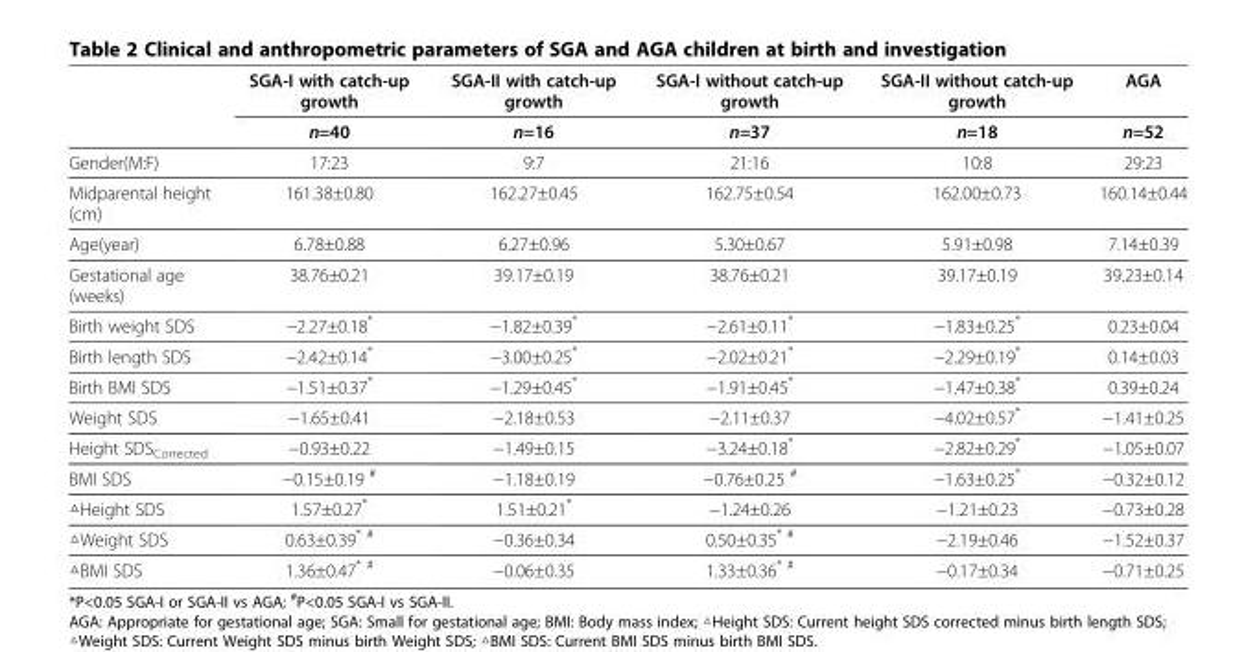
<table><thead><tr><td rowspan="2"></td><td rowspan="2">SGA-I with catch-up growth n=40</td><td rowspan="2">SGA-II with catch-up growth n=16</td><td rowspan="2">SGA-I without catch-up growth n=37</td><td rowspan="2">SGA-II without catch-up growth n=18</td><td rowspan="2">AGA n=52</td></tr><tr></tr></thead><tbody><tr><td>Gender(M:F)</td><td>17:23</td><td>9:7</td><td>21:16</td><td>10:8</td><td>29:23</td></tr><tr><td>Midparental height (cm)</td><td>161.38±0.80</td><td>162.27±0.45</td><td>162.75±0.54</td><td>162.00±0.73</td><td>160.14±0.44</td></tr><tr><td>Age(year)</td><td>6.78±0.88</td><td>6.27±0.96</td><td>5.30±0.67</td><td>5.91±0.98</td><td>7.14±0.39</td></tr><tr><td>Gestational age (weeks)</td><td>38.76±0.21</td><td>39.17±0.19</td><td>38.76±0.21</td><td>39.17±0.19</td><td>39.23±0.14</td></tr><tr><td>Birth weight SDS</td><td>−2.27±0.18*</td><td>−1.82±0.39*</td><td>−2.61±0.11*</td><td>−1.83±0.25*</td><td>0.23±0.04</td></tr><tr><td>Birth length SDS</td><td>−2.42±0.14*</td><td>−3.00±0.25*</td><td>−2.02±0.21*</td><td>−2.29±0.19*</td><td>0.14±0.03</td></tr><tr><td>Birth BMI SDS</td><td>−1.51±0.37*</td><td>−1.29±0.45*</td><td>−1.91±0.45*</td><td>−1.47±0.38*</td><td>0.39±0.24</td></tr><tr><td>Weight SDS</td><td>−1.65±0.41</td><td>−2.18±0.53</td><td>−2.11±0.37</td><td>−4.02±0.57*</td><td>−1.41±0.25</td></tr><tr><td>Height SDS<sub>Corrected</sub></td><td>−0.93±0.22</td><td>−1.49±0.15</td><td>−3.24±0.18*</td><td>−2.82±0.29*</td><td>−1.05±0.07</td></tr><tr><td>BMI SDS</td><td>−0.15±0.19 <sup>#</sup></td><td>−1.18±0.19</td><td>−0.76±0.25 <sup>#</sup></td><td>−1.63±0.25*</td><td>−0.32±0.12</td></tr><tr><td>△Height SDS</td><td>1.57±0.27*</td><td>1.51±0.21*</td><td>−1.24±0.26</td><td>−1.21±0.23</td><td>−0.73±0.28</td></tr><tr><td>△Weight SDS</td><td>0.63±0.39<sup>* #</sup></td><td>−0.36±0.34</td><td>0.50±0.35<sup>* #</sup></td><td>−2.19±0.46</td><td>−1.52±0.37</td></tr><tr><td>△BMI SDS</td><td>1.36±0.47<sup>* #</sup></td><td>−0.06±0.35</td><td>1.33±0.36<sup>* #</sup></td><td>−0.17±0.34</td><td>−0.71±0.25</td></tr></tbody></table>